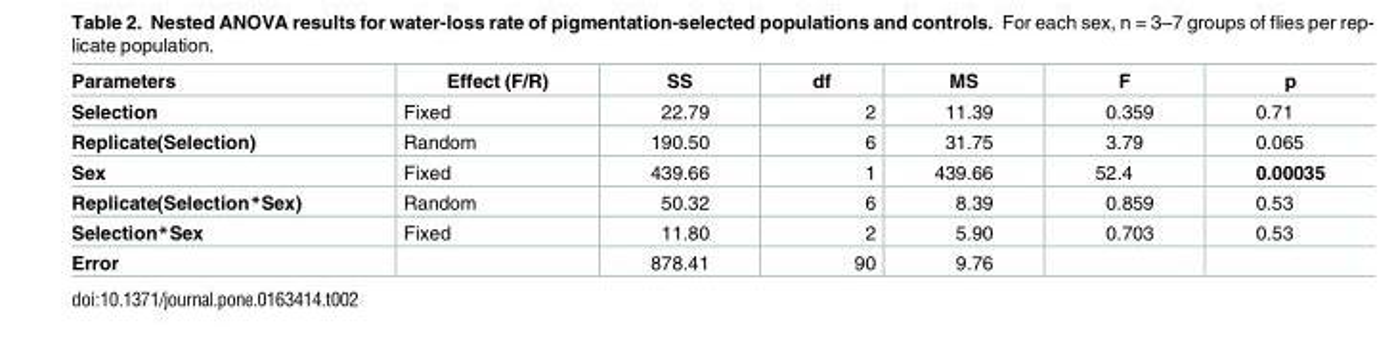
<table><thead><tr><td>Parameters</td><td>Effect (F/R)</td><td>SS</td><td>df</td><td>MS</td><td>F</td><td>p</td></tr></thead><tbody><tr><td>Selection</td><td>Fixed</td><td>22.79</td><td>2</td><td>11.39</td><td>0.359</td><td>0.71</td></tr><tr><td>Replicate(Selection)</td><td>Random</td><td>190.50</td><td>6</td><td>31.75</td><td>3.79</td><td>0.065</td></tr><tr><td>Sex</td><td>Fixed</td><td>439.66</td><td>1</td><td>439.66</td><td>52.4</td><td>0.00035</td></tr><tr><td>Replicate(Selection*Sex)</td><td>Random</td><td>50.32</td><td>6</td><td>8.39</td><td>0.859</td><td>0.53</td></tr><tr><td>Selection*Sex</td><td>Fixed</td><td>11.80</td><td>2</td><td>5.90</td><td>0.703</td><td>0.53</td></tr><tr><td>Error</td><td></td><td>878.41</td><td>90</td><td>9.76</td><td></td><td></td></tr></tbody></table>